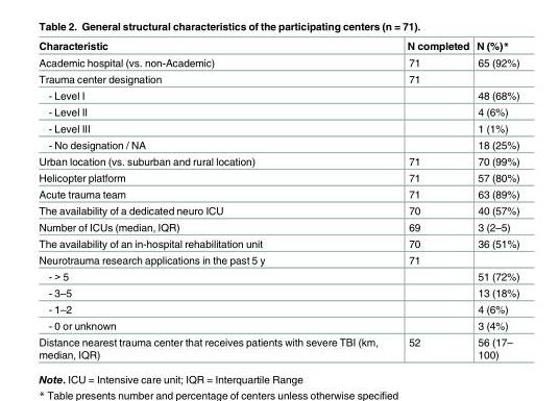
<table><thead><tr><td>Characteristic</td><td>N completed</td><td>N (%)*</td></tr></thead><tbody><tr><td>Academic hospital (vs. non-Academic)</td><td>71</td><td>65 (92%)</td></tr><tr><td>Trauma center designation</td><td>71</td><td></td></tr><tr><td>- Level I</td><td></td><td>48 (68%)</td></tr><tr><td>- Level II</td><td></td><td>4 (6%)</td></tr><tr><td>- Level III</td><td></td><td>1 (1%)</td></tr><tr><td>- No designation / NA</td><td></td><td>18 (25%)</td></tr><tr><td>Urban location (vs. suburban and rural location)</td><td>71</td><td>70 (99%)</td></tr><tr><td>Helicopter platform</td><td>71</td><td>57 (80%)</td></tr><tr><td>Acute trauma team</td><td>71</td><td>63 (89%)</td></tr><tr><td>The availability of a dedicated neuro ICU</td><td>70</td><td>40 (57%)</td></tr><tr><td>Number of ICUs (median, IQR)</td><td>69</td><td>3 (2–5)</td></tr><tr><td>The availability of an in-hospital rehabilitation unit</td><td>70</td><td>36 (51%)</td></tr><tr><td>Neurotrauma research applications in the past 5 y</td><td>71</td><td></td></tr><tr><td>- &gt; 5</td><td></td><td>51 (72%)</td></tr><tr><td>- 3–5</td><td></td><td>13 (18%)</td></tr><tr><td>- 1–2</td><td></td><td>4 (6%)</td></tr><tr><td>- 0 or unknown</td><td></td><td>3 (4%)</td></tr><tr><td>Distance nearest trauma center that receives patients with severe TBI (km, median, IQR)</td><td>52</td><td>56 (17– 100)</td></tr></tbody></table>